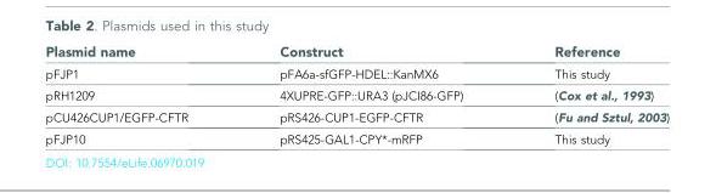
<table><thead><tr><td>Plasmid name</td><td>Construct</td><td>Reference</td></tr></thead><tbody><tr><td>pFJP1</td><td>pFA6a-sfGFP-HDEL::KanMX6</td><td>This study</td></tr><tr><td>pRH1209</td><td>4XUPRE-GFP::URA3 (pJCI86-GFP)</td><td>(Cox et al., 1993)</td></tr><tr><td>pCU426CUP1/EGFP-CFTR</td><td>pRS426-CUP1-EGFP-CFTR</td><td>(Fu and Sztul, 2003)</td></tr><tr><td>pFJP10</td><td>pRS425-GAL1-CPY*-mRFP</td><td>This study</td></tr></tbody></table>